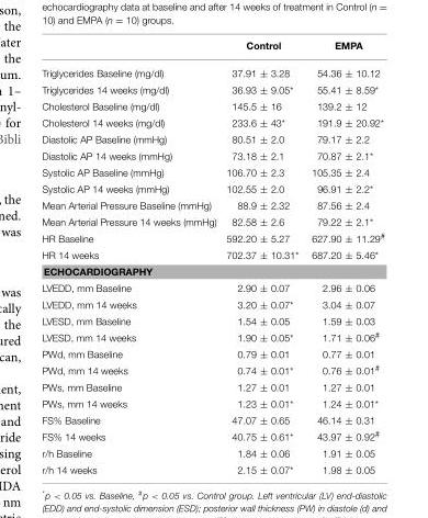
<table><thead><tr><td></td><td>Control</td><td>EMPA</td></tr></thead><tbody><tr><td>Triglycerides Baseline (mg/dl)</td><td>37.91 ± 3.28</td><td>54.36 ± 10.12</td></tr><tr><td>Triglycerides 14 weeks (mg/dl)</td><td>36.93 ± 9.05*</td><td>55.41 ± 8.59*</td></tr><tr><td>Cholesterol Baseline (mg/dl)</td><td>145.5 ± 16</td><td>139.2 ± 12</td></tr><tr><td>Cholesterol 14 weeks (mg/dl)</td><td>233.6 ± 43*</td><td>191.9 ± 20.92*</td></tr><tr><td>Diastolic AP Baseline (mmHg)</td><td>80.51 ± 2.0</td><td>79.17 ± 2.2</td></tr><tr><td>Diastolic AP 14 weeks (mmHg)</td><td>73.18 ± 2.1</td><td>70.87 ± 2.1*</td></tr><tr><td>Systolic AP Baseline (mmHg)</td><td>106.70 ± 2.3</td><td>105.35 ± 2.4</td></tr><tr><td>Systolic AP 14 weeks (mmHg)</td><td>102.55 ± 2.0</td><td>96.91 ± 2.2*</td></tr><tr><td>Mean Arterial Pressure Baseline (mmHg)</td><td>88.9 ± 2.32</td><td>87.56 ± 2.4</td></tr><tr><td>Mean Arterial Pressure 14 weeks (mmHg)</td><td>82.58 ± 2.6</td><td>79.22 ± 2.1*</td></tr><tr><td>HR Baseline</td><td>592.20 ± 5.27</td><td>627.90 ± 11.29<sup>#</sup></td></tr><tr><td>HR 14 weeks</td><td>702.37 ± 10.31*</td><td>687.20 ± 5.46*</td></tr><tr><td colspan="3">ECHOCARDIOGRAPHY</td></tr><tr><td>LVEDD, mm Baseline</td><td>2.90 ± 0.07</td><td>2.96 ± 0.06</td></tr><tr><td>LVEDD, mm 14 weeks</td><td>3.20 ± 0.07*</td><td>3.04 ± 0.07</td></tr><tr><td>LVESD, mm Baseline</td><td>1.54 ± 0.05</td><td>1.59 ± 0.03</td></tr><tr><td>LVESD, mm 14 weeks</td><td>1.90 ± 0.05*</td><td>1.71 ± 0.06<sup>#</sup></td></tr><tr><td>PWd, mm Baseline</td><td>0.79 ± 0.01</td><td>0.77 ± 0.01</td></tr><tr><td>PWd, mm 14 weeks</td><td>0.74 ± 0.01*</td><td>0.76 ± 0.01<sup>#</sup></td></tr><tr><td>PWs, mm Baseline</td><td>1.27 ± 0.01</td><td>1.27 ± 0.01</td></tr><tr><td>PWs, mm 14 weeks</td><td>1.23 ± 0.01*</td><td>1.24 ± 0.01*</td></tr><tr><td>FS% Baseline</td><td>47.07 ± 0.65</td><td>46.14 ± 0.31</td></tr><tr><td>FS% 14 weeks</td><td>40.75 ± 0.61*</td><td>43.97 ± 0.92<sup>#</sup></td></tr><tr><td>r/h Baseline</td><td>1.84 ± 0.06</td><td>1.91 ± 0.05</td></tr><tr><td>r/h 14 weeks</td><td>2.15 ± 0.07*</td><td>1.98 ± 0.05</td></tr></tbody></table>